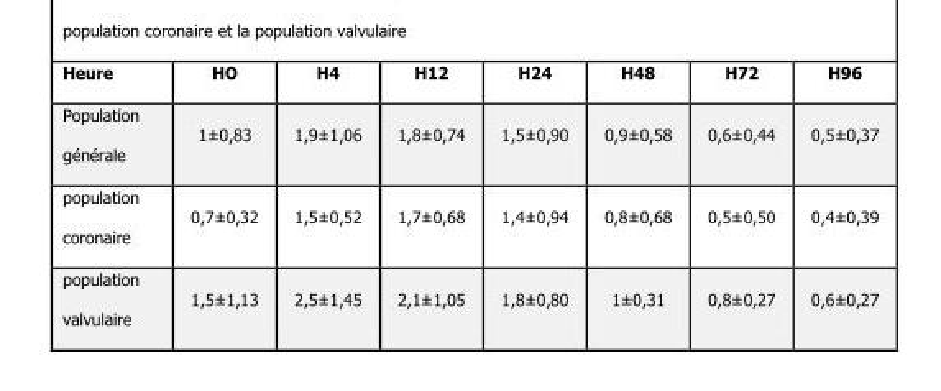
<table><thead><tr><td>Heure</td><td>HO</td><td>H4</td><td>H12</td><td>H24</td><td>H48</td><td>H72</td><td>H96</td></tr></thead><tbody><tr><td>Population générale</td><td>1±0,83</td><td>1,9±1,06</td><td>1,8±0,74</td><td>1,5±0,90</td><td>0,9±0,58</td><td>0,6±0,44</td><td>0,5±0,37</td></tr><tr><td>population coronaire</td><td>0,7±0,32</td><td>1,5±0,52</td><td>1,7±0,68</td><td>1,4±0,94</td><td>0,8±0,68</td><td>0,5±0,50</td><td>0,4±0,39</td></tr><tr><td>population valvulaire</td><td>1,5±1,13</td><td>2,5±1,45</td><td>2,1±1,05</td><td>1,8±0,80</td><td>1±0,31</td><td>0,8±0,27</td><td>0,6±0,27</td></tr></tbody></table>